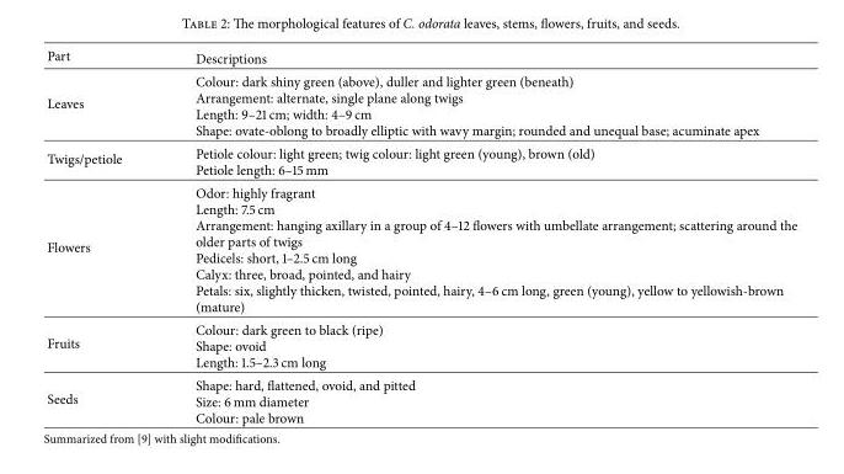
<table><thead><tr><td>Part</td><td>Descriptions</td></tr></thead><tbody><tr><td>Leaves</td><td>Colour: dark shiny green (above), duller and lighter green (beneath) Arrangement: alternate, single plane along twigs Length: 9–21 cm; width: 4–9 cm Shape: ovate-oblong to broadly elliptic with wavy margin; rounded and unequal base; acuminate apex</td></tr><tr><td>Twigs/petiole</td><td>Petiole colour: light green; twig colour: light green (young), brown (old) Petiole length: 6–15 mm</td></tr><tr><td>Flowers</td><td>Odor: highly fragrant Length: 7.5 cm Arrangement: hanging axillary in a group of 4–12 flowers with umbellate arrangement; scattering around the older parts of twigs Pedicels: short, 1–2.5 cm long Calyx: three, broad, pointed, and hairy Petals: six, slightly thicken, twisted, pointed, hairy, 4–6 cm long, green (young), yellow to yellowish-brown (mature)</td></tr><tr><td>Fruits</td><td>Colour: dark green to black (ripe) Shape: ovoid Length: 1.5–2.3 cm long</td></tr><tr><td>Seeds</td><td>Shape: hard, flattened, ovoid, and pitted Size: 6 mm diameter Colour: pale brown</td></tr></tbody></table>